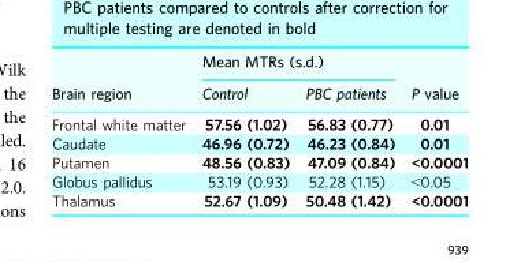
<table><thead><tr><td rowspan="2">Brain region</td><td colspan="2">Mean MTRs (s.d.)</td><td rowspan="2">P value</td></tr><tr><td>Control</td><td>PBC patients</td></tr></thead><tbody><tr><td>Frontal white matter</td><td>57.56 (1.02)</td><td>56.83 (0.77)</td><td>0.01</td></tr><tr><td>Caudate</td><td>46.96 (0.72)</td><td>46.23 (0.84)</td><td>0.01</td></tr><tr><td>Putamen</td><td>48.56 (0.83)</td><td>47.09 (0.84)</td><td>&lt;0.0001</td></tr><tr><td>Globus pallidus</td><td>53.19 (0.93)</td><td>52.28 (1.15)</td><td>&lt;0.05</td></tr><tr><td>Thalamus</td><td>52.67 (1.09)</td><td>50.48 (1.42)</td><td>&lt;0.0001</td></tr></tbody></table>